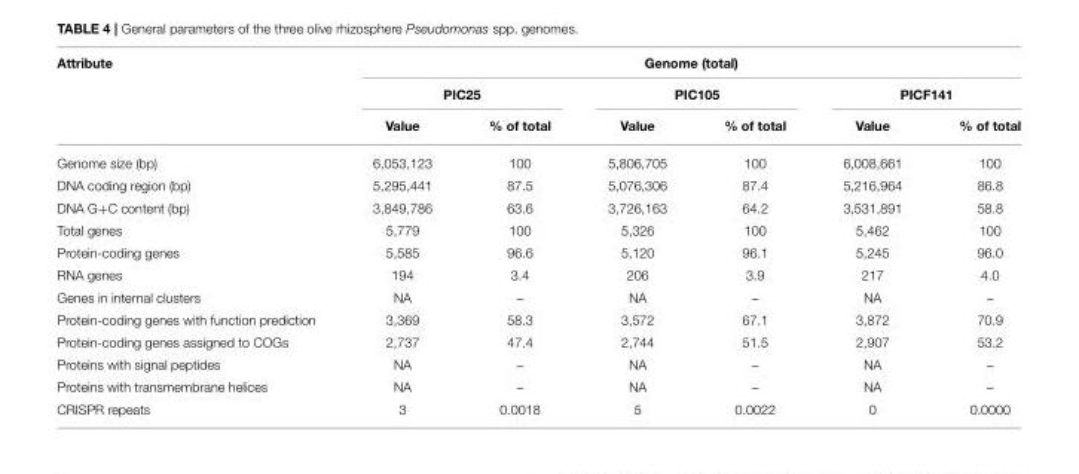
<table><thead><tr><td rowspan="3">Attribute</td><td colspan="6">Genome (total)</td></tr><tr><td colspan="2">PIC25</td><td colspan="2">PIC105</td><td colspan="2">PICF141</td></tr><tr><td>Value</td><td>% of total</td><td>Value</td><td>% of total</td><td>Value</td><td>% of total</td></tr></thead><tbody><tr><td>Genome size (bp)</td><td>6,053,123</td><td>100</td><td>5,806,705</td><td>100</td><td>6,008,661</td><td>100</td></tr><tr><td>DNA coding region (bp)</td><td>5,295,441</td><td>87.5</td><td>5,076,306</td><td>87.4</td><td>5,216,964</td><td>86.8</td></tr><tr><td>DNA G+C content (bp)</td><td>3,849,786</td><td>63.6</td><td>3,726,163</td><td>64.2</td><td>3,531,891</td><td>58.8</td></tr><tr><td>Total genes</td><td>5,779</td><td>100</td><td>5,326</td><td>100</td><td>5,462</td><td>100</td></tr><tr><td>Protein-coding genes</td><td>5,585</td><td>96.6</td><td>5,120</td><td>96.1</td><td>5,245</td><td>96.0</td></tr><tr><td>RNA genes</td><td>194</td><td>3.4</td><td>206</td><td>3.9</td><td>217</td><td>4.0</td></tr><tr><td>Genes in internal clusters</td><td>NA</td><td>–</td><td>NA</td><td>–</td><td>NA</td><td>–</td></tr><tr><td>Protein-coding genes with function prediction</td><td>3,369</td><td>58.3</td><td>3,572</td><td>67.1</td><td>3,872</td><td>70.9</td></tr><tr><td>Protein-coding genes assigned to COGs</td><td>2,737</td><td>47.4</td><td>2,744</td><td>51.5</td><td>2,907</td><td>53.2</td></tr><tr><td>Proteins with signal peptides</td><td>NA</td><td>–</td><td>NA</td><td>–</td><td>NA</td><td>–</td></tr><tr><td>Proteins with transmembrane helices</td><td>NA</td><td>–</td><td>NA</td><td>–</td><td>NA</td><td>–</td></tr><tr><td>CRISPR repeats</td><td>3</td><td>0.0018</td><td>5</td><td>0.0022</td><td>0</td><td>0.0000</td></tr></tbody></table>